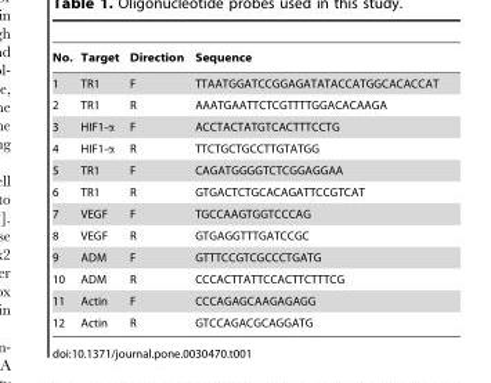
<table><thead><tr><td>No.</td><td>Target</td><td>Direction</td><td>Sequence</td></tr></thead><tbody><tr><td>1</td><td>TR1</td><td>F</td><td>TTAATGGATCCGGAGATATACCATGGCACACCAT</td></tr><tr><td>2</td><td>TR1</td><td>R</td><td>AAATGAATTCTCGTTTTGGACACAAGA</td></tr><tr><td>3</td><td>HIF1-α</td><td>F</td><td>ACCTACTATGTCACTTTCCTG</td></tr><tr><td>4</td><td>HIF1-α</td><td>R</td><td>TTCTGCTGCCTTGTATGG</td></tr><tr><td>5</td><td>TR1</td><td>F</td><td>CAGATGGGGTCTCGGAGGAA</td></tr><tr><td>6</td><td>TR1</td><td>R</td><td>GTGACTCTGCACAGATTCCGTCAT</td></tr><tr><td>7</td><td>VEGF</td><td>F</td><td>TGCCAAGTGGTCCCAG</td></tr><tr><td>8</td><td>VEGF</td><td>R</td><td>GTGAGGTTTGATCCGC</td></tr><tr><td>9</td><td>ADM</td><td>F</td><td>GTTTCCGTCGCCCTGATG</td></tr><tr><td>10</td><td>ADM</td><td>R</td><td>CCCACTTATTCCACTTCTTTCG</td></tr><tr><td>11</td><td>Actin</td><td>F</td><td>CCCAGAGCAAGAGAGG</td></tr><tr><td>12</td><td>Actin</td><td>R</td><td>GTCCAGACGCAGGATG</td></tr></tbody></table>